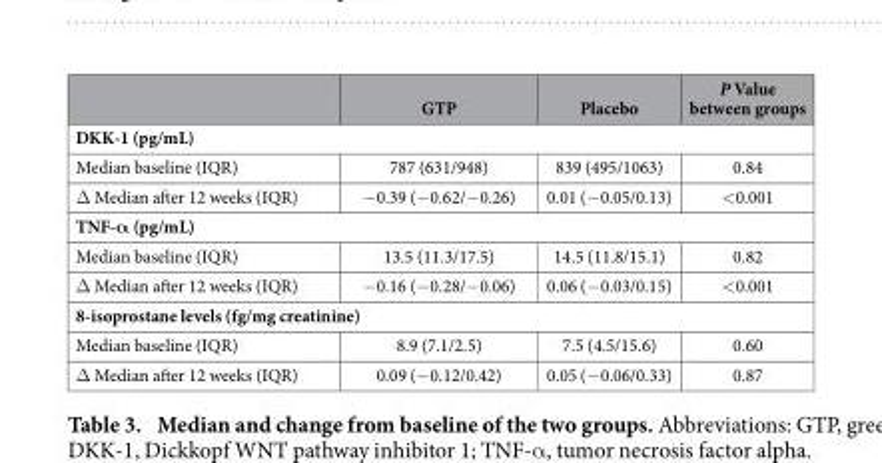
<table><thead><tr><td></td><td>GTP</td><td>Placebo</td><td>P Value between groups</td></tr></thead><tbody><tr><td colspan="4">DKK-1 (pg/mL)</td></tr><tr><td>Median baseline (IQR)</td><td>787 (631/948)</td><td>839 (495/1063)</td><td>0.84</td></tr><tr><td>Δ Median after 12 weeks (IQR)</td><td>− 0.39 (− 0.62/− 0.26)</td><td>0.01 (− 0.05/0.13)</td><td>&lt; 0.001</td></tr><tr><td colspan="4">TNF-α (pg/mL)</td></tr><tr><td>Median baseline (IQR)</td><td>13.5 (11.3/17.5)</td><td>14.5 (11.8/15.1)</td><td>0.82</td></tr><tr><td>Δ Median after 12 weeks (IQR)</td><td>− 0.16 (− 0.28/− 0.06)</td><td>0.06 (− 0.03/0.15)</td><td>&lt; 0.001</td></tr><tr><td colspan="4">8-isoprostane levels (fg/mg creatinine)</td></tr><tr><td>Median baseline (IQR)</td><td>8.9 (7.1/2.5)</td><td>7.5 (4.5/15.6)</td><td>0.60</td></tr><tr><td>Δ Median after 12 weeks (IQR)</td><td>0.09 (− 0.12/0.42)</td><td>0.05 (− 0.06/0.33)</td><td>0.87</td></tr></tbody></table>